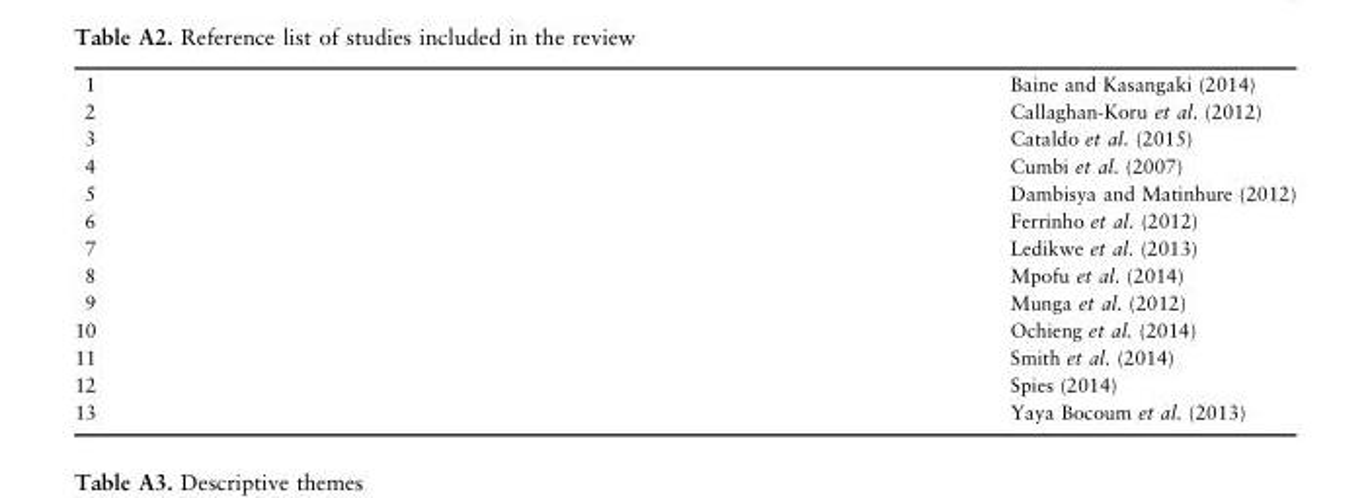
<table><tbody><tr><td>1</td><td>Baine and Kasangaki (2014)</td></tr><tr><td>2</td><td>Callaghan-Koru et al. (2012)</td></tr><tr><td>3</td><td>Cataldo et al. (2015)</td></tr><tr><td>4</td><td>Cumbi et al. (2007)</td></tr><tr><td>5</td><td>Dambisya and Matinhure (2012)</td></tr><tr><td>6</td><td>Ferrinho et al. (2012)</td></tr><tr><td>7</td><td>Ledikwe et al. (2013)</td></tr><tr><td>8</td><td>Mpofu et al. (2014)</td></tr><tr><td>9</td><td>Munga et al. (2012)</td></tr><tr><td>10</td><td>Ochieng et al. (2014)</td></tr><tr><td>11</td><td>Smith et al. (2014)</td></tr><tr><td>12</td><td>Spies (2014)</td></tr><tr><td>13</td><td>Yaya Bocoum et al. (2013)</td></tr></tbody></table>